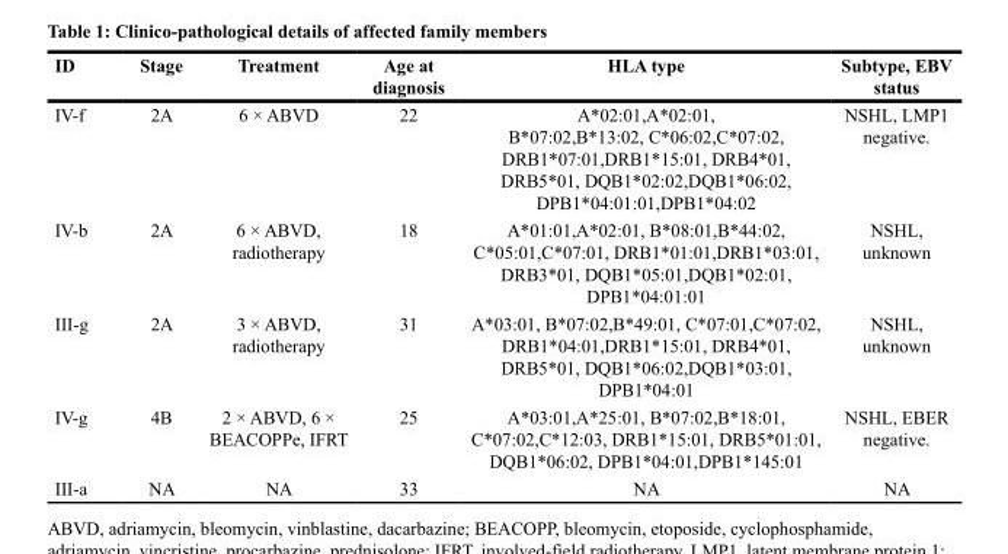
<table><thead><tr><td>ID</td><td>Stage</td><td>Treatment</td><td>Age at diagnosis</td><td>HLA type</td><td>Subtype, EBV status</td></tr></thead><tbody><tr><td>IV-f</td><td>2A</td><td>6 × ABVD</td><td>22</td><td>A*02:01,A*02:01, B*07:02,B*13:02, C*06:02,C*07:02, DRB1*07:01,DRB1*15:01, DRB4*01, DRB5*01, DQB1*02:02,DQB1*06:02, DPB1*04:01:01,DPB1*04:02</td><td>NSHL, LMP1 negative.</td></tr><tr><td>IV-b</td><td>2A</td><td>6 × ABVD, radiotherapy</td><td>18</td><td>A*01:01,A*02:01, B*08:01,B*44:02, C*05:01,C*07:01, DRB1*01:01,DRB1*03:01, DRB3*01, DQB1*05:01,DQB1*02:01, DPB1*04:01:01</td><td>NSHL, unknown</td></tr><tr><td>III-g</td><td>2A</td><td>3 × ABVD, radiotherapy</td><td>31</td><td>A*03:01, B*07:02,B*49:01, C*07:01,C*07:02, DRB1*04:01,DRB1*15:01, DRB4*01, DRB5*01, DQB1*06:02,DQB1*03:01, DPB1*04:01</td><td>NSHL, unknown</td></tr><tr><td>IV-g</td><td>4B</td><td>2 × ABVD, 6 × BEACOPPe, IFRT</td><td>25</td><td>A*03:01,A*25:01, B*07:02,B*18:01, C*07:02,C*12:03, DRB1*15:01, DRB5*01:01, DQB1*06:02, DPB1*04:01,DPB1*145:01</td><td>NSHL, EBER negative.</td></tr><tr><td>III-a</td><td>NA</td><td>NA</td><td>33</td><td>NA</td><td>NA</td></tr></tbody></table>